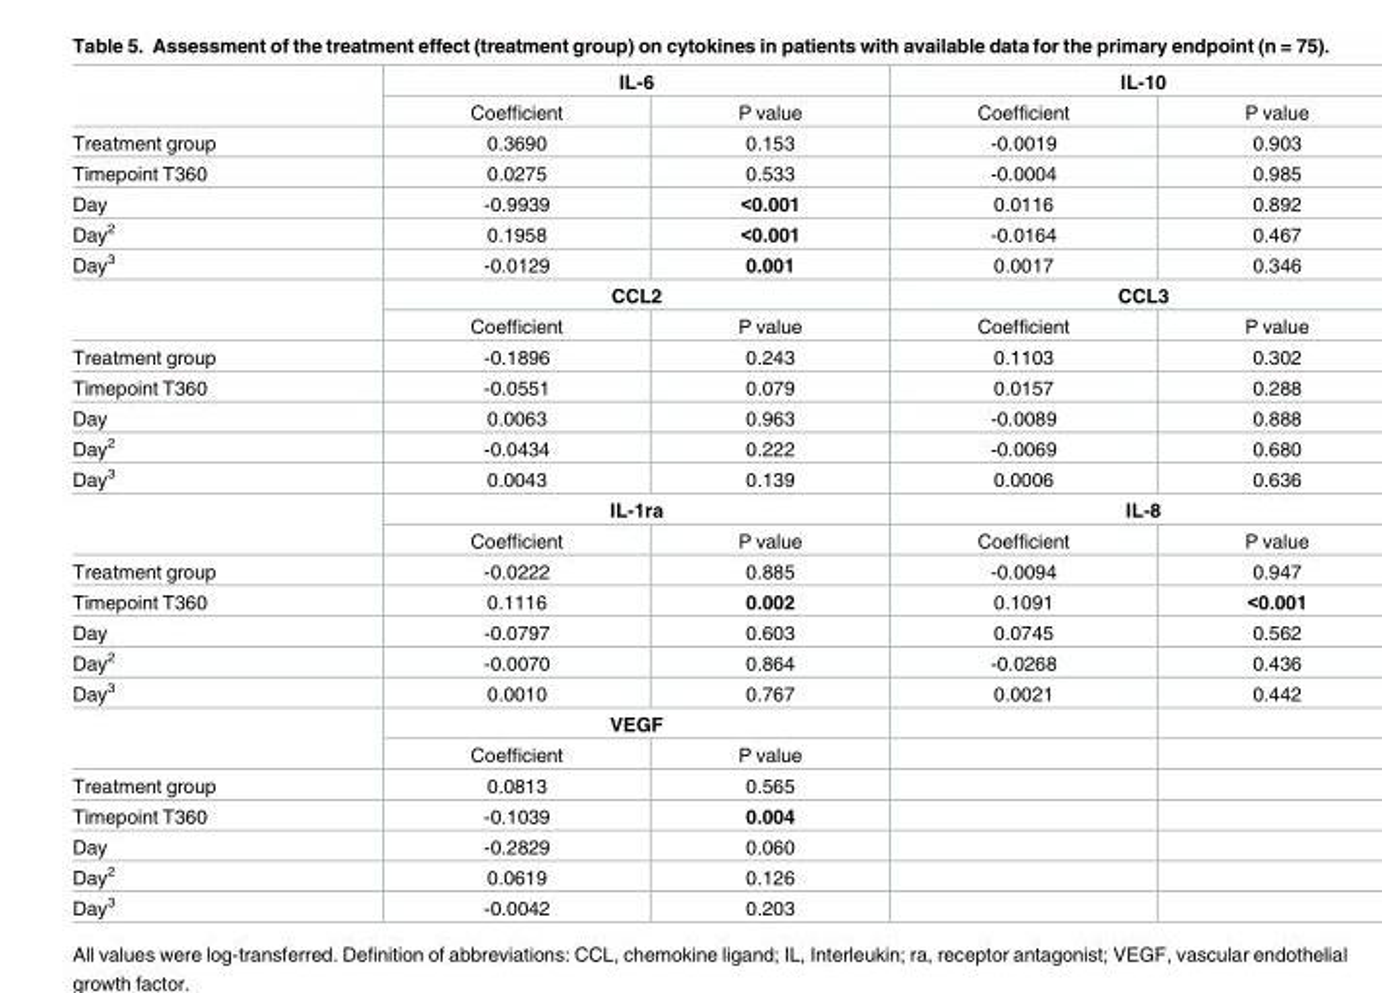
<table><thead><tr><td rowspan="2"></td><td colspan="2">IL-6</td><td colspan="2">IL-10</td></tr><tr><td>Coefficient</td><td>P value</td><td>Coefficient</td><td>P value</td></tr></thead><tbody><tr><td>Treatment group</td><td>0.3690</td><td>0.153</td><td>-0.0019</td><td>0.903</td></tr><tr><td>Timepoint T360</td><td>0.0275</td><td>0.533</td><td>-0.0004</td><td>0.985</td></tr><tr><td>Day</td><td>-0.9939</td><td>&lt;0.001</td><td>0.0116</td><td>0.892</td></tr><tr><td>Day<sup>2</sup></td><td>0.1958</td><td>&lt;0.001</td><td>-0.0164</td><td>0.467</td></tr><tr><td rowspan="3">Day<sup>3</sup></td><td>-0.0129</td><td>0.001</td><td>0.0017</td><td>0.346</td></tr><tr><td colspan="2">CCL2</td><td colspan="2">CCL3</td></tr><tr><td>Coefficient</td><td>P value</td><td>Coefficient</td><td>P value</td></tr><tr><td>Treatment group</td><td>-0.1896</td><td>0.243</td><td>0.1103</td><td>0.302</td></tr><tr><td>Timepoint T360</td><td>-0.0551</td><td>0.079</td><td>0.0157</td><td>0.288</td></tr><tr><td>Day</td><td>0.0063</td><td>0.963</td><td>-0.0089</td><td>0.888</td></tr><tr><td>Day<sup>2</sup></td><td>-0.0434</td><td>0.222</td><td>-0.0069</td><td>0.680</td></tr><tr><td rowspan="3">Day<sup>3</sup></td><td>0.0043</td><td>0.139</td><td>0.0006</td><td>0.636</td></tr><tr><td colspan="2">IL-1ra</td><td colspan="2">IL-8</td></tr><tr><td>Coefficient</td><td>P value</td><td>Coefficient</td><td>P value</td></tr><tr><td>Treatment group</td><td>-0.0222</td><td>0.885</td><td>-0.0094</td><td>0.947</td></tr><tr><td>Timepoint T360</td><td>0.1116</td><td>0.002</td><td>0.1091</td><td>&lt;0.001</td></tr><tr><td>Day</td><td>-0.0797</td><td>0.603</td><td>0.0745</td><td>0.562</td></tr><tr><td>Day<sup>2</sup></td><td>-0.0070</td><td>0.864</td><td>-0.0268</td><td>0.436</td></tr><tr><td rowspan="3">Day<sup>3</sup></td><td>0.0010</td><td>0.767</td><td>0.0021</td><td>0.442</td></tr><tr><td colspan="2">VEGF</td><td></td><td></td></tr><tr><td>Coefficient</td><td>P value</td><td></td><td></td></tr><tr><td>Treatment group</td><td>0.0813</td><td>0.565</td><td></td><td></td></tr><tr><td>Timepoint T360</td><td>-0.1039</td><td>0.004</td><td></td><td></td></tr><tr><td>Day</td><td>-0.2829</td><td>0.060</td><td></td><td></td></tr><tr><td>Day<sup>2</sup></td><td>0.0619</td><td>0.126</td><td></td><td></td></tr><tr><td>Day<sup>3</sup></td><td>-0.0042</td><td>0.203</td><td></td><td></td></tr></tbody></table>